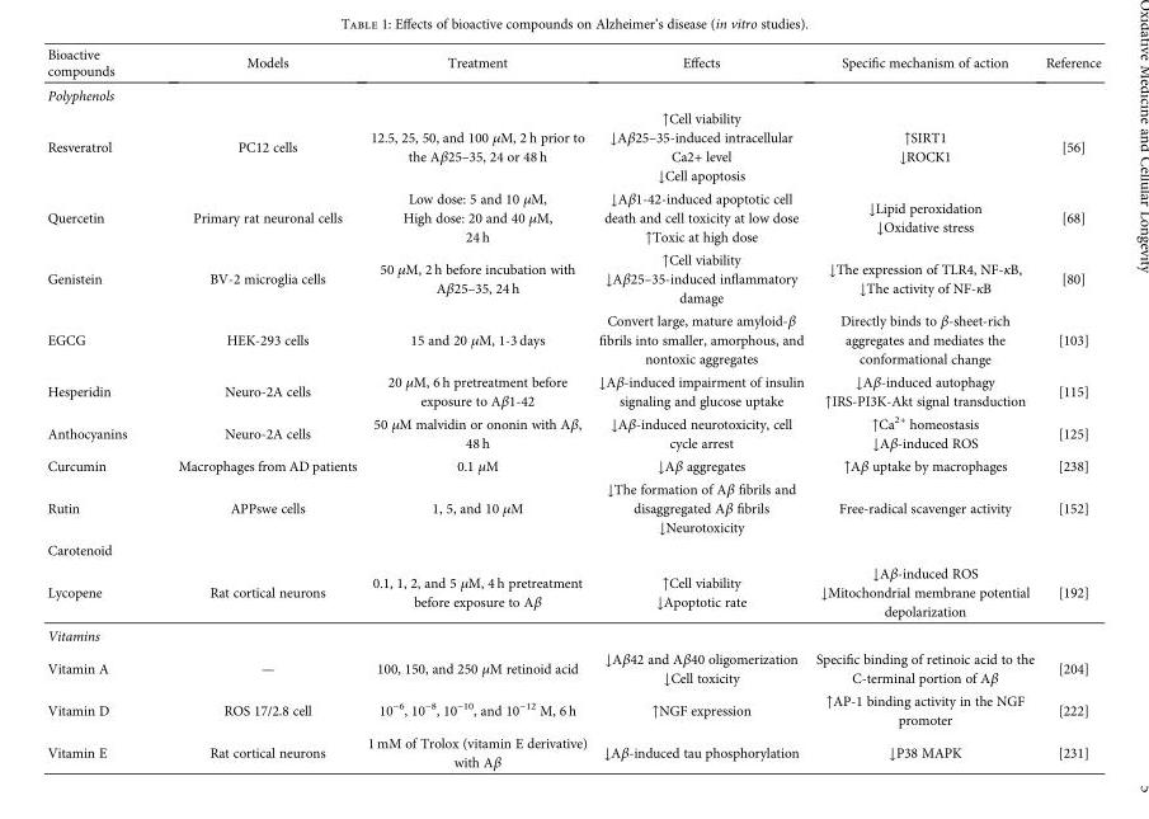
<table><thead><tr><td>Bioactive compounds</td><td>Models</td><td>Treatment</td><td>Effects</td><td>Specific mechanism of action</td><td>Reference</td></tr></thead><tbody><tr><td colspan="6">Polyphenols</td></tr><tr><td>Resveratrol</td><td>PC12 cells</td><td>12.5, 25, 50, and 100 μM, 2 h prior to the Aβ25–35, 24 or 48 h</td><td>↑Cell viability ↓Aβ25–35-induced intracellular Ca2+ level ↓Cell apoptosis</td><td>↑SIRT1 ↓ROCK1</td><td>[56]</td></tr><tr><td>Quercetin</td><td>Primary rat neuronal cells</td><td>Low dose: 5 and 10 μM, High dose: 20 and 40 μM, 24 h</td><td>↓Aβ1-42-induced apoptotic cell death and cell toxicity at low dose ↑Toxic at high dose</td><td>↓Lipid peroxidation ↓Oxidative stress</td><td>[68]</td></tr><tr><td>Genistein</td><td>BV-2 microglia cells</td><td>50 μM, 2 h before incubation with Aβ25–35, 24 h</td><td>↑Cell viability ↓Aβ25–35-induced inflammatory damage</td><td>↓The expression of TLR4, NF-κB, ↓The activity of NF-κB</td><td>[80]</td></tr><tr><td>EGCG</td><td>HEK-293 cells</td><td>15 and 20 μM, 1-3 days</td><td>Convert large, mature amyloid-β fibrils into smaller, amorphous, and nontoxic aggregates</td><td>Directly binds to β-sheet-rich aggregates and mediates the conformational change</td><td>[103]</td></tr><tr><td>Hesperidin</td><td>Neuro-2A cells</td><td>20 μM, 6 h pretreatment before exposure to Aβ1-42</td><td>↓Aβ-induced impairment of insulin signaling and glucose uptake</td><td>↓Aβ-induced autophagy ↑IRS-PI3K-Akt signal transduction</td><td>[115]</td></tr><tr><td>Anthocyanins</td><td>Neuro-2A cells</td><td>50 μM malvidin or ononin with Aβ, 48 h</td><td>↓Aβ-induced neurotoxicity, cell cycle arrest</td><td>↑Ca<sup>2+</sup> homeostasis ↓Aβ-induced ROS</td><td>[125]</td></tr><tr><td>Curcumin</td><td>Macrophages from AD patients</td><td>0.1 μM</td><td>↓Aβ aggregates</td><td>↑Aβ uptake by macrophages</td><td>[238]</td></tr><tr><td>Rutin</td><td>APPswe cells</td><td>1, 5, and 10 μM</td><td>↓The formation of Aβ fibrils and disaggregated Aβ fibrils ↓Neurotoxicity</td><td>Free-radical scavenger activity</td><td>[152]</td></tr><tr><td colspan="6">Carotenoid</td></tr><tr><td>Lycopene</td><td>Rat cortical neurons</td><td>0.1, 1, 2, and 5 μM, 4 h pretreatment before exposure to Aβ</td><td>↑Cell viability ↓Apoptotic rate</td><td>↓Aβ-induced ROS ↓Mitochondrial membrane potential depolarization</td><td>[192]</td></tr><tr><td colspan="6">Vitamins</td></tr><tr><td>Vitamin A</td><td>—</td><td>100, 150, and 250 μM retinoid acid</td><td>↓Aβ42 and Aβ40 oligomerization ↓Cell toxicity</td><td>Specific binding of retinoic acid to the C-terminal portion of Aβ</td><td>[204]</td></tr><tr><td>Vitamin D</td><td>ROS 17/2.8 cell</td><td>10<sup>−6</sup>, 10<sup>−8</sup>, 10<sup>−10</sup>, and 10<sup>−12</sup> M, 6 h</td><td>↑NGF expression</td><td>↑AP-1 binding activity in the NGF promoter</td><td>[222]</td></tr><tr><td>Vitamin E</td><td>Rat cortical neurons</td><td>1 mM of Trolox (vitamin E derivative) with Aβ</td><td>↓Aβ-induced tau phosphorylation</td><td>↓P38 MAPK</td><td>[231]</td></tr></tbody></table>